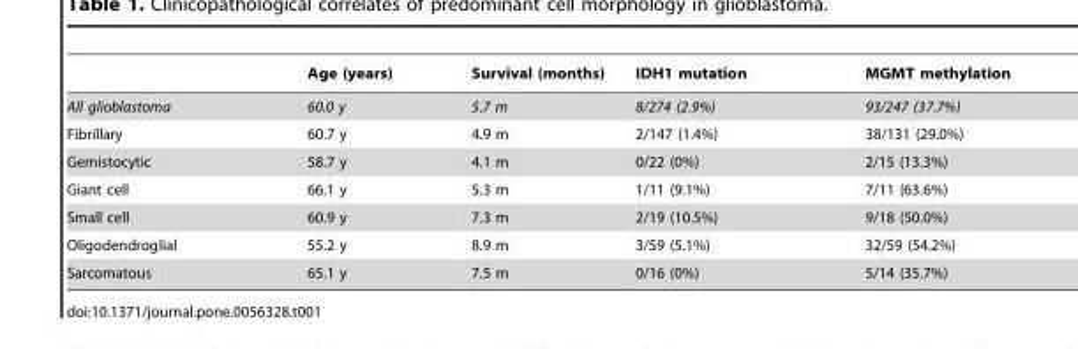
<table><thead><tr><td></td><td>Age (years)</td><td>Survival (months)</td><td>IDH1 mutation</td><td>MGMT methylation</td></tr></thead><tbody><tr><td>All glioblastoma</td><td>60.0 y</td><td>5.7 m</td><td>8/274 (2.9%)</td><td>93/247 (37.7%)</td></tr><tr><td>Fibrillary</td><td>60.7 y</td><td>4.9 m</td><td>2/147 (1.4%)</td><td>38/131 (29.0%)</td></tr><tr><td>Gemistocytic</td><td>58.7 y</td><td>4.1 m</td><td>0/22 (0%)</td><td>2/15 (13.3%)</td></tr><tr><td>Giant cell</td><td>66.1 y</td><td>5.3 m</td><td>1/11 (9.1%)</td><td>7/11 (63.6%)</td></tr><tr><td>Small cell</td><td>60.9 y</td><td>7.3 m</td><td>2/19 (10.5%)</td><td>9/18 (50.0%)</td></tr><tr><td>Oligodendroglial</td><td>55.2 y</td><td>8.9 m</td><td>3/59 (5.1%)</td><td>32/59 (54.2%)</td></tr><tr><td>Sarcomatous</td><td>65.1 y</td><td>7.5 m</td><td>0/16 (0%)</td><td>5/14 (35.7%)</td></tr></tbody></table>